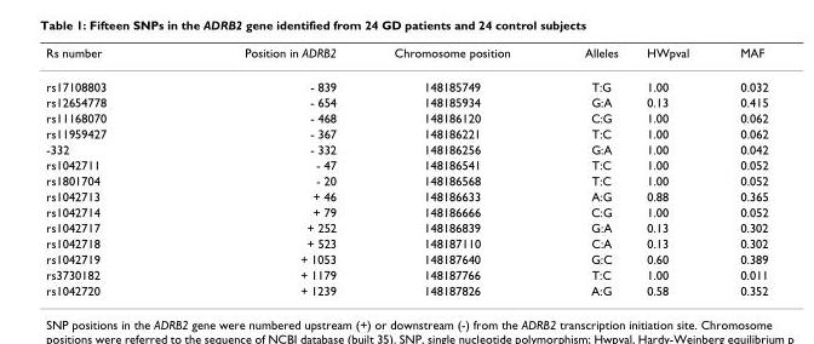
<table><thead><tr><td>Rs number</td><td>Position in ADRB2</td><td>Chromosome position</td><td>Alleles</td><td>HWpval</td><td>MAF</td></tr></thead><tbody><tr><td>rs17108803</td><td>- 839</td><td>148185749</td><td>T:G</td><td>1.00</td><td>0.032</td></tr><tr><td>rs12654778</td><td>- 654</td><td>148185934</td><td>G:A</td><td>0.13</td><td>0.415</td></tr><tr><td>rs11168070</td><td>- 468</td><td>148186120</td><td>C:G</td><td>1.00</td><td>0.062</td></tr><tr><td>rs11959427</td><td>- 367</td><td>148186221</td><td>T:C</td><td>1.00</td><td>0.062</td></tr><tr><td>-332</td><td>- 332</td><td>148186256</td><td>G:A</td><td>1.00</td><td>0.042</td></tr><tr><td>rs1042711</td><td>- 47</td><td>148186541</td><td>T:C</td><td>1.00</td><td>0.052</td></tr><tr><td>rs1801704</td><td>- 20</td><td>148186568</td><td>T:C</td><td>1.00</td><td>0.052</td></tr><tr><td>rs1042713</td><td>+ 46</td><td>148186633</td><td>A:G</td><td>0.88</td><td>0.365</td></tr><tr><td>rs1042714</td><td>+ 79</td><td>148186666</td><td>C:G</td><td>1.00</td><td>0.052</td></tr><tr><td>rs1042717</td><td>+ 252</td><td>148186839</td><td>G:A</td><td>0.13</td><td>0.302</td></tr><tr><td>rs1042718</td><td>+ 523</td><td>148187110</td><td>C:A</td><td>0.13</td><td>0.302</td></tr><tr><td>rs1042719</td><td>+ 1053</td><td>148187640</td><td>G:C</td><td>0.60</td><td>0.389</td></tr><tr><td>rs3730182</td><td>+ 1179</td><td>148187766</td><td>T:C</td><td>1.00</td><td>0.011</td></tr><tr><td>rs1042720</td><td>+ 1239</td><td>148187826</td><td>A:G</td><td>0.58</td><td>0.352</td></tr></tbody></table>